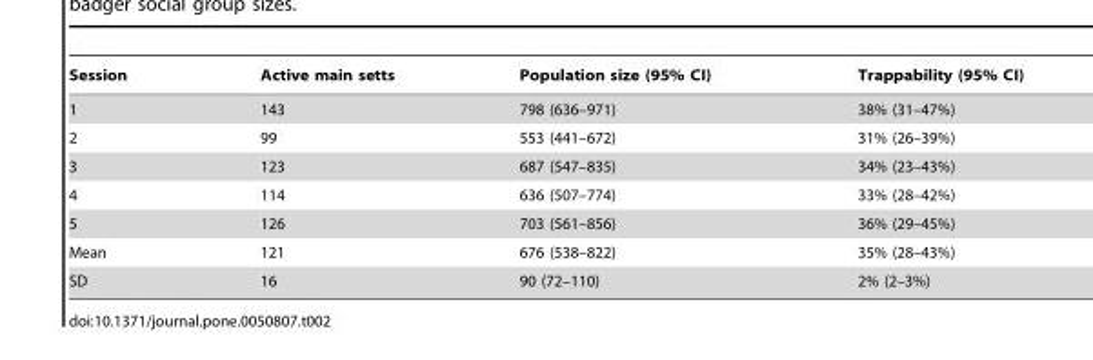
<table><thead><tr><td>Session</td><td>Active main setts</td><td>Population size (95% CI)</td><td>Trappability (95% CI)</td></tr></thead><tbody><tr><td>1</td><td>143</td><td>798 (636–971)</td><td>38% (31–47%)</td></tr><tr><td>2</td><td>99</td><td>553 (441–672)</td><td>31% (26–39%)</td></tr><tr><td>3</td><td>123</td><td>687 (547–835)</td><td>34% (23–43%)</td></tr><tr><td>4</td><td>114</td><td>636 (507–774)</td><td>33% (28–42%)</td></tr><tr><td>5</td><td>126</td><td>703 (561–856)</td><td>36% (29–45%)</td></tr><tr><td>Mean</td><td>121</td><td>676 (538–822)</td><td>35% (28–43%)</td></tr><tr><td>SD</td><td>16</td><td>90 (72–110)</td><td>2% (2–3%)</td></tr></tbody></table>